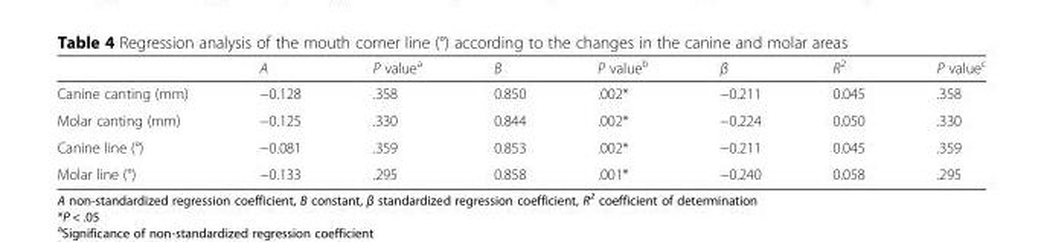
<table><thead><tr><td></td><td>A</td><td>P value<sup>a</sup></td><td>B</td><td>P value<sup>b</sup></td><td>β</td><td>R<sup>2</sup></td><td>P value<sup>c</sup></td></tr></thead><tbody><tr><td>Canine canting (mm)</td><td>−0.128</td><td>.358</td><td>0.850</td><td>.002*</td><td>−0.211</td><td>0.045</td><td>.358</td></tr><tr><td>Molar canting (mm)</td><td>−0.125</td><td>.330</td><td>0.844</td><td>.002*</td><td>−0.224</td><td>0.050</td><td>.330</td></tr><tr><td>Canine line (°)</td><td>−0.081</td><td>.359</td><td>0.853</td><td>.002*</td><td>−0.211</td><td>0.045</td><td>.359</td></tr><tr><td>Molar line (°)</td><td>−0.133</td><td>.295</td><td>0.858</td><td>.001*</td><td>−0.240</td><td>0.058</td><td>.295</td></tr></tbody></table>